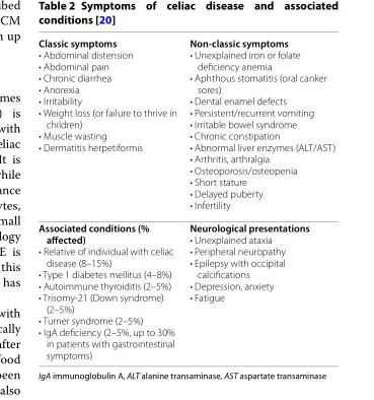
<table><tbody><tr><td>Classic symptoms • Abdominal distension • Abdominal pain • Chronic diarrhea • Anorexia • Irritability • Weight loss (or failure to thrive in children) • Muscle wasting • Dermatitis herpetiformis</td><td>Non-classic symptoms • Unexplained iron or folate deficiency anemia • Aphthous stomatitis (oral canker sores) • Dental enamel defects • Persistent/recurrent vomiting • Irritable bowel syndrome • Chronic constipation • Abnormal liver enzymes (ALT/AST) • Arthritis, arthralgia • Osteoporosis/osteopenia • Short stature • Delayed puberty • Infertility</td></tr><tr><td>Associated conditions (% affected) • Relative of individual with celiac disease (8–15%) • Type 1 diabetes mellitus (4–8%) • Autoimmune thyroiditis (2–5%) • Trisomy-21 (Down syndrome) (2–5%) • Turner syndrome (2–5%) • IgA deficiency (2–5%, up to 30% in patients with gastrointestinal symptoms)</td><td>Neurological presentations • Unexplained ataxia • Peripheral neuropathy • Epilepsy with occipital calcifications • Depression, anxiety • Fatigue</td></tr></tbody></table>